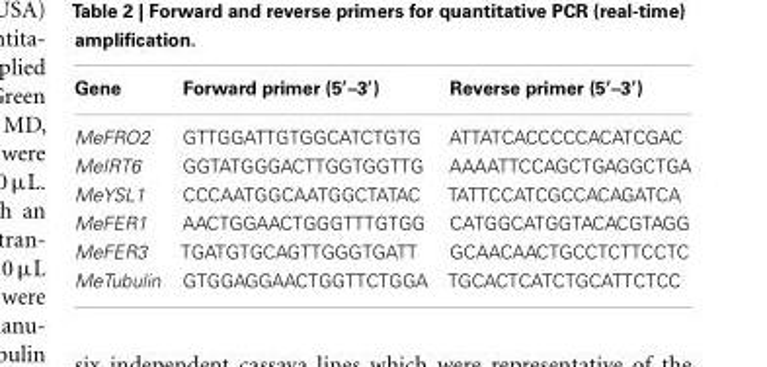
<table><thead><tr><td>Gene</td><td>Forward primer (5′–3′)</td><td>Reverse primer (5′–3′)</td></tr></thead><tbody><tr><td>MeFRO2</td><td>GTTGGATTGTGGCATCTGTG</td><td>ATTATCACCCCCACATCGAC</td></tr><tr><td>MeIRT6</td><td>GGTATGGGACTTGGTGGTTG</td><td>AAAATTCCAGCTGAGGCTGA</td></tr><tr><td>MeYSL1</td><td>CCCAATGGCAATGGCTATAC</td><td>TATTCCATCGCCACAGATCA</td></tr><tr><td>MeFER1</td><td>AACTGGAACTGGGTTTGTGG</td><td>CATGGCATGGTACACGTAGG</td></tr><tr><td>MeFER3</td><td>TGATGTGCAGTTGGGTGATT</td><td>GCAACAACTGCCTCTTCCTC</td></tr><tr><td>MeTubulin</td><td>GTGGAGGAACTGGTTCTGGA</td><td>TGCACTCATCTGCATTCTCC</td></tr></tbody></table>